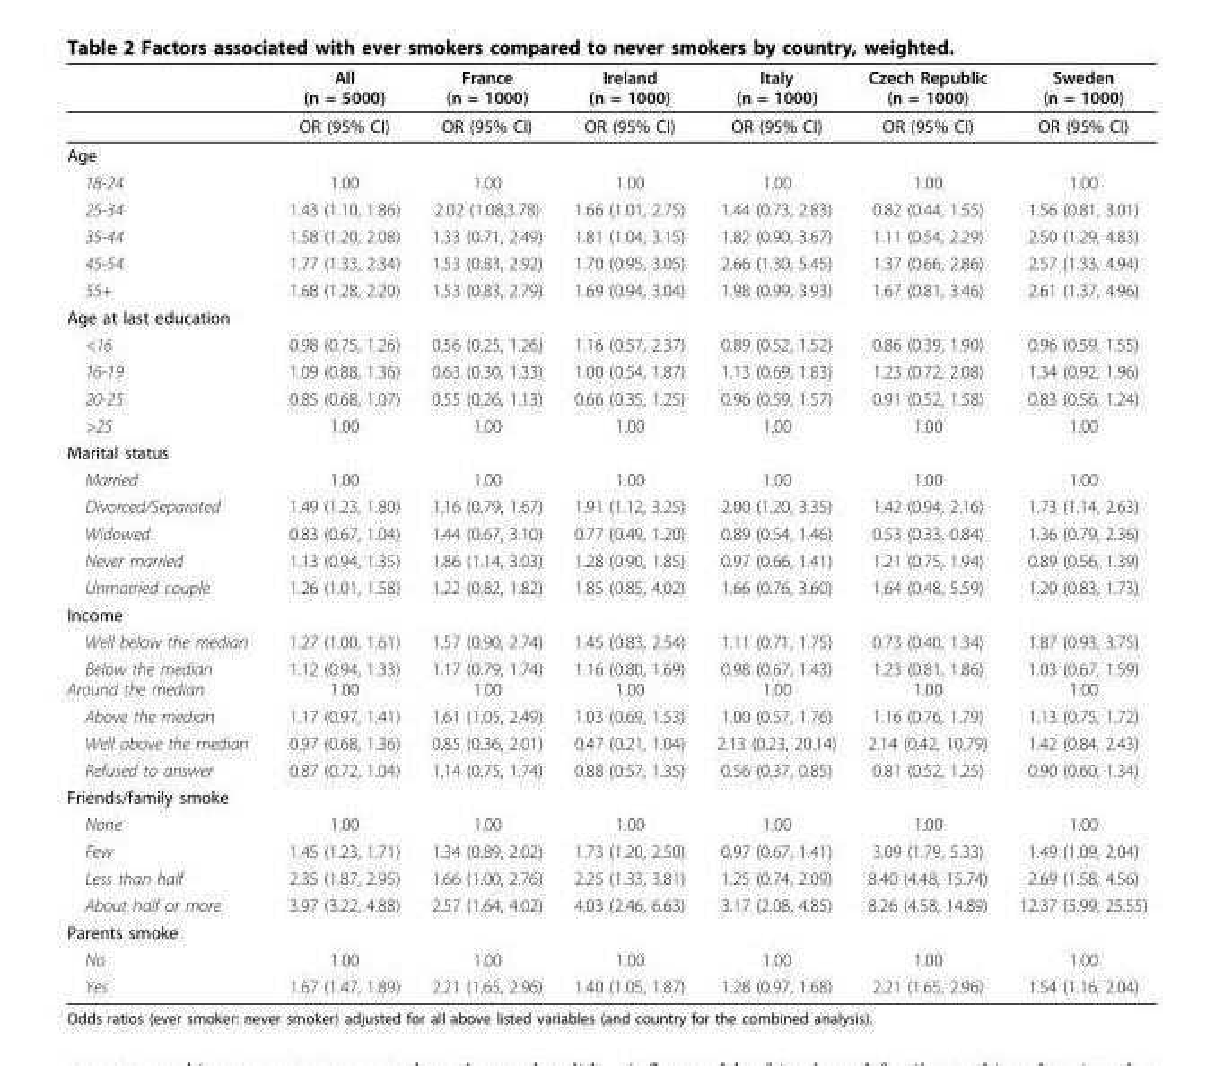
<table><thead><tr><td></td><td>All (n = 5000)</td><td>France (n = 1000)</td><td>Ireland (n = 1000)</td><td>Italy (n = 1000)</td><td>Czech Republic (n = 1000)</td><td>Sweden (n = 1000)</td></tr></thead><tbody><tr><td></td><td>OR (95% CI)</td><td>OR (95% CI)</td><td>OR (95% CI)</td><td>OR (95% CI)</td><td>OR (95% CI)</td><td>OR (95% CI)</td></tr><tr><td colspan="7">Age</td></tr><tr><td>18-24</td><td>1.00</td><td>1.00</td><td>1.00</td><td>1.00</td><td>1.00</td><td>1.00</td></tr><tr><td>25-34</td><td>1.43 (1.10, 1.86)</td><td>2.02 (1.08,3.78)</td><td>1.66 (1.01, 2.75)</td><td>1.44 (0.73, 2.83)</td><td>0.82 (0.44, 1.55)</td><td>1.56 (0.81, 3.01)</td></tr><tr><td>35-44</td><td>1.58 (1.20, 2.08)</td><td>1.33 (0.71, 2.49)</td><td>1.81 (1.04, 3.15)</td><td>1.82 (0.90, 3.67)</td><td>1.11 (0.54, 2.29)</td><td>2.50 (1.29, 4.83)</td></tr><tr><td>45-54</td><td>1.77 (1.33, 2.34)</td><td>1.53 (0.83, 2.92)</td><td>1.70 (0.95, 3.05)</td><td>2.66 (1.30, 5.45)</td><td>1.37 (0.66, 2.86)</td><td>2.57 (1.33, 4.94)</td></tr><tr><td>55+</td><td>1.68 (1.28, 2.20)</td><td>1.53 (0.83, 2.79)</td><td>1.69 (0.94, 3.04)</td><td>1.98 (0.99, 3.93)</td><td>1.67 (0.81, 3.46)</td><td>2.61 (1.37, 4.96)</td></tr><tr><td colspan="7">Age at last education</td></tr><tr><td>&lt;16</td><td>0.98 (0.75, 1.26)</td><td>0.56 (0.25, 1.26)</td><td>1.16 (0.57, 2.37)</td><td>0.89 (0.52, 1.52)</td><td>0.86 (0.39, 1.90)</td><td>0.96 (0.59, 1.55)</td></tr><tr><td>16-19</td><td>1.09 (0.88, 1.36)</td><td>0.63 (0.30, 1.33)</td><td>1.00 (0.54, 1.87)</td><td>1.13 (0.69, 1.83)</td><td>1.23 (0.72, 2.08)</td><td>1.34 (0.92, 1.96)</td></tr><tr><td>20-25</td><td>0.85 (0.68, 1.07)</td><td>0.55 (0.26, 1.13)</td><td>0.66 (0.35, 1.25)</td><td>0.96 (0.59, 1.57)</td><td>0.91 (0.52, 1.58)</td><td>0.83 (0.56, 1.24)</td></tr><tr><td>&gt;25</td><td>1.00</td><td>1.00</td><td>1.00</td><td>1.00</td><td>1.00</td><td>1.00</td></tr><tr><td colspan="7">Marital status</td></tr><tr><td>Married</td><td>1.00</td><td>1.00</td><td>1.00</td><td>1.00</td><td>1.00</td><td>1.00</td></tr><tr><td>Divorced/Separated</td><td>1.49 (1.23, 1.80)</td><td>1.16 (0.79, 1.67)</td><td>1.91 (1.12, 3.25)</td><td>2.00 (1.20, 3.35)</td><td>1.42 (0.94, 2.16)</td><td>1.73 (1.14, 2.63)</td></tr><tr><td>Widowed</td><td>0.83 (0.67, 1.04)</td><td>1.44 (0.67, 3.10)</td><td>0.77 (0.49, 1.20)</td><td>0.89 (0.54, 1.46)</td><td>0.53 (0.33, 0.84)</td><td>1.36 (0.79, 2.36)</td></tr><tr><td>Never married</td><td>1.13 (0.94, 1.35)</td><td>1.86 (1.14, 3.03)</td><td>1.28 (0.90, 1.85)</td><td>0.97 (0.66, 1.41)</td><td>1.21 (0.75, 1.94)</td><td>0.89 (0.56, 1.39)</td></tr><tr><td>Unmarried couple</td><td>1.26 (1.01, 1.58)</td><td>1.22 (0.82, 1.82)</td><td>1.85 (0.85, 4.02)</td><td>1.66 (0.76, 3.60)</td><td>1.64 (0.48, 5.59)</td><td>1.20 (0.83, 1.73)</td></tr><tr><td colspan="7">Income</td></tr><tr><td>Well below the median</td><td>1.27 (1.00, 1.61)</td><td>1.57 (0.90, 2.74)</td><td>1.45 (0.83, 2.54)</td><td>1.11 (0.71, 1.75)</td><td>0.73 (0.40, 1.34)</td><td>1.87 (0.93, 3.75)</td></tr><tr><td>Below the median Around the median</td><td>1.12 (0.94, 1.33) 1.00</td><td>1.17 (0.79, 1.74) 1.00</td><td>1.16 (0.80, 1.69) 1.00</td><td>0.98 (0.67, 1.43) 1.00</td><td>1.23 (0.81, 1.86) 1.00</td><td>1.03 (0.67, 1.59) 1.00</td></tr><tr><td>Above the median</td><td>1.17 (0.97, 1.41)</td><td>1.61 (1.05, 2.49)</td><td>1.03 (0.69, 1.53)</td><td>1.00 (0.57, 1.76)</td><td>1.16 (0.76, 1.79)</td><td>1.13 (0.75, 1.72)</td></tr><tr><td>Well above the median</td><td>0.97 (0.68, 1.36)</td><td>0.85 (0.36, 2.01)</td><td>0.47 (0.21, 1.04)</td><td>2.13 (0.23, 20.14)</td><td>2.14 (0.42, 10.79)</td><td>1.42 (0.84, 2.43)</td></tr><tr><td>Refused to answer</td><td>0.87 (0.72, 1.04)</td><td>1.14 (0.75, 1.74)</td><td>0.88 (0.57, 1.35)</td><td>0.56 (0.37, 0.85)</td><td>0.81 (0.52, 1.25)</td><td>0.90 (0.60, 1.34)</td></tr><tr><td colspan="7">Friends/family smoke</td></tr><tr><td>None</td><td>1.00</td><td>1.00</td><td>1.00</td><td>1.00</td><td>1.00</td><td>1.00</td></tr><tr><td>Few</td><td>1.45 (1.23, 1.71)</td><td>1.34 (0.89, 2.02)</td><td>1.73 (1.20, 2.50)</td><td>0.97 (0.67, 1.41)</td><td>3.09 (1.79, 5.33)</td><td>1.49 (1.09, 2.04)</td></tr><tr><td>Less than half</td><td>2.35 (1.87, 2.95)</td><td>1.66 (1.00, 2.76)</td><td>2.25 (1.33, 3.81)</td><td>1.25 (0.74, 2.09)</td><td>8.40 (4.48, 15.74)</td><td>2.69 (1.58, 4.56)</td></tr><tr><td>About half or more</td><td>3.97 (3.22, 4.88)</td><td>2.57 (1.64, 4.02)</td><td>4.03 (2.46, 6.63)</td><td>3.17 (2.08, 4.85)</td><td>8.26 (4.58, 14.89)</td><td>12.37 (5.99, 25.55)</td></tr><tr><td colspan="7">Parents smoke</td></tr><tr><td>No</td><td>1.00</td><td>1.00</td><td>1.00</td><td>1.00</td><td>1.00</td><td>1.00</td></tr><tr><td>Yes</td><td>1.67 (1.47, 1.89)</td><td>2.21 (1.65, 2.96)</td><td>1.40 (1.05, 1.87)</td><td>1.28 (0.97, 1.68)</td><td>2.21 (1.65, 2.96)</td><td>1.54 (1.16, 2.04)</td></tr></tbody></table>